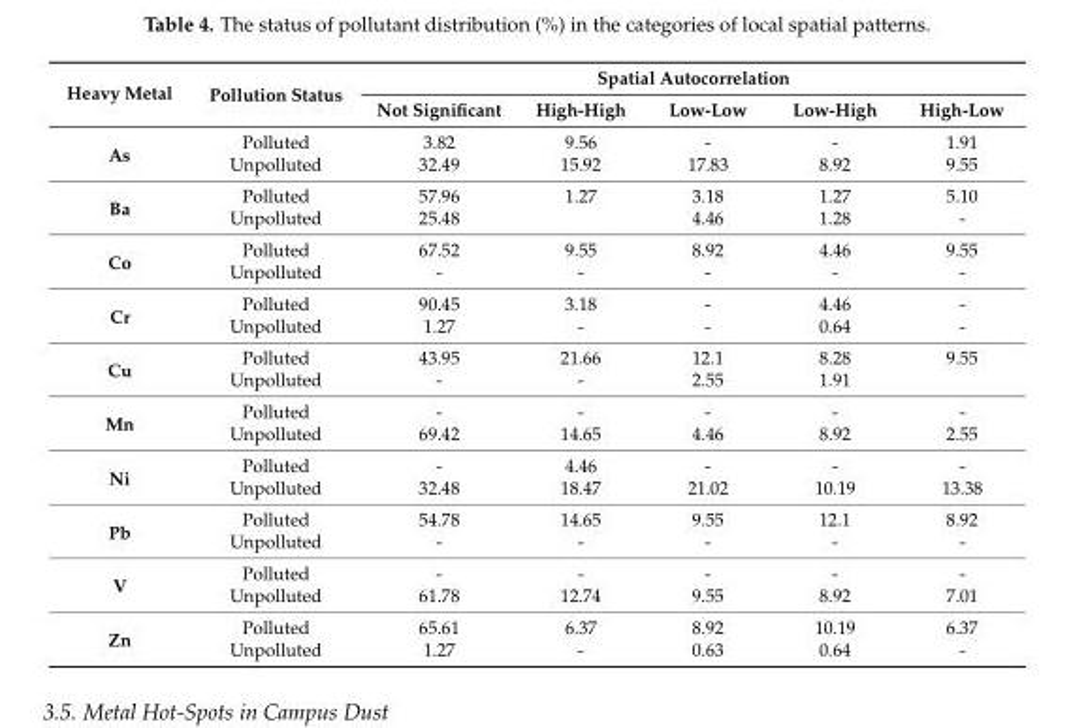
<table><thead><tr><td rowspan="2">Heavy Metal</td><td rowspan="2">Pollution Status</td><td colspan="5">Spatial Autocorrelation</td></tr><tr><td>Not Significant</td><td>High-High</td><td>Low-Low</td><td>Low-High</td><td>High-Low</td></tr></thead><tbody><tr><td rowspan="2">As</td><td>Polluted</td><td>3.82</td><td>9.56</td><td>-</td><td>-</td><td>1.91</td></tr><tr><td>Unpolluted</td><td>32.49</td><td>15.92</td><td>17.83</td><td>8.92</td><td>9.55</td></tr><tr><td rowspan="2">Ba</td><td>Polluted</td><td>57.96</td><td>1.27</td><td>3.18</td><td>1.27</td><td>5.10</td></tr><tr><td>Unpolluted</td><td>25.48</td><td></td><td>4.46</td><td>1.28</td><td>-</td></tr><tr><td rowspan="2">Co</td><td>Polluted</td><td>67.52</td><td>9.55</td><td>8.92</td><td>4.46</td><td>9.55</td></tr><tr><td>Unpolluted</td><td>-</td><td>-</td><td>-</td><td>-</td><td>-</td></tr><tr><td rowspan="2">Cr</td><td>Polluted</td><td>90.45</td><td>3.18</td><td>-</td><td>4.46</td><td>-</td></tr><tr><td>Unpolluted</td><td>1.27</td><td>-</td><td>-</td><td>0.64</td><td>-</td></tr><tr><td rowspan="2">Cu</td><td>Polluted</td><td>43.95</td><td>21.66</td><td>12.1</td><td>8.28</td><td>9.55</td></tr><tr><td>Unpolluted</td><td>-</td><td>-</td><td>2.55</td><td>1.91</td><td></td></tr><tr><td rowspan="2">Mn</td><td>Polluted</td><td>-</td><td>-</td><td>-</td><td>-</td><td>-</td></tr><tr><td>Unpolluted</td><td>69.42</td><td>14.65</td><td>4.46</td><td>8.92</td><td>2.55</td></tr><tr><td rowspan="2">Ni</td><td>Polluted</td><td>-</td><td>4.46</td><td>-</td><td>-</td><td>-</td></tr><tr><td>Unpolluted</td><td>32.48</td><td>18.47</td><td>21.02</td><td>10.19</td><td>13.38</td></tr><tr><td rowspan="2">Pb</td><td>Polluted</td><td>54.78</td><td>14.65</td><td>9.55</td><td>12.1</td><td>8.92</td></tr><tr><td>Unpolluted</td><td>-</td><td>-</td><td>-</td><td>-</td><td>-</td></tr><tr><td rowspan="2">V</td><td>Polluted</td><td>-</td><td>-</td><td>-</td><td>-</td><td>-</td></tr><tr><td>Unpolluted</td><td>61.78</td><td>12.74</td><td>9.55</td><td>8.92</td><td>7.01</td></tr><tr><td rowspan="2">Zn</td><td>Polluted</td><td>65.61</td><td>6.37</td><td>8.92</td><td>10.19</td><td>6.37</td></tr><tr><td>Unpolluted</td><td>1.27</td><td>-</td><td>0.63</td><td>0.64</td><td>-</td></tr></tbody></table>